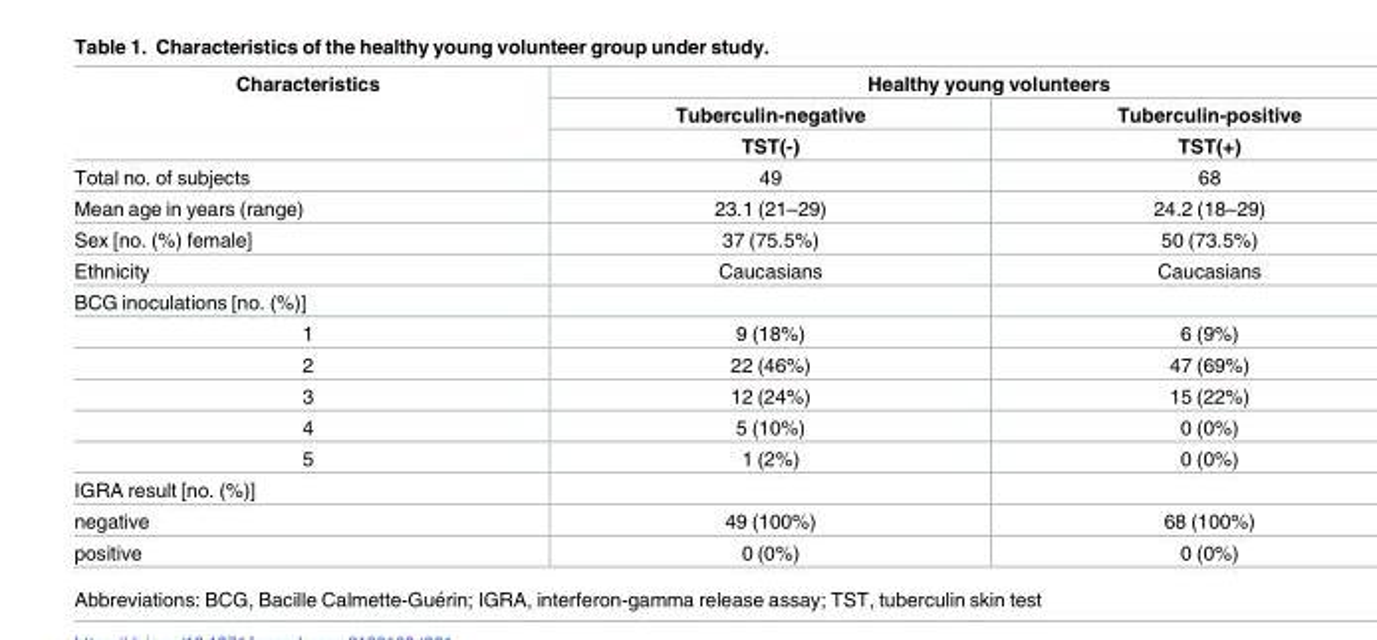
<table><thead><tr><td rowspan="3">Characteristics</td><td colspan="2">Healthy young volunteers</td></tr><tr><td rowspan="2">Tuberculin-negative TST(-)</td><td rowspan="2">Tuberculin-positive TST(+)</td></tr><tr></tr></thead><tbody><tr><td>Total no. of subjects</td><td>49</td><td>68</td></tr><tr><td>Mean age in years (range)</td><td>23.1 (21–29)</td><td>24.2 (18–29)</td></tr><tr><td>Sex [no. (%) female]</td><td>37 (75.5%)</td><td>50 (73.5%)</td></tr><tr><td>Ethnicity</td><td>Caucasians</td><td>Caucasians</td></tr><tr><td colspan="3">BCG inoculations [no. (%)]</td></tr><tr><td>1</td><td>9 (18%)</td><td>6 (9%)</td></tr><tr><td>2</td><td>22 (46%)</td><td>47 (69%)</td></tr><tr><td>3</td><td>12 (24%)</td><td>15 (22%)</td></tr><tr><td>4</td><td>5 (10%)</td><td>0 (0%)</td></tr><tr><td>5</td><td>1 (2%)</td><td>0 (0%)</td></tr><tr><td colspan="3">IGRA result [no. (%)]</td></tr><tr><td>negative</td><td>49 (100%)</td><td>68 (100%)</td></tr><tr><td>positive</td><td>0 (0%)</td><td>0 (0%)</td></tr></tbody></table>